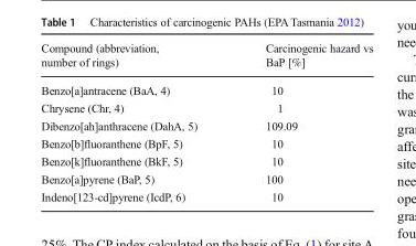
<table><thead><tr><td>Compound (abbreviation, number of rings)</td><td>Carcinogenic hazard vs BaP [%]</td></tr></thead><tbody><tr><td>Benzo[a]antracene (BaA, 4)</td><td>10</td></tr><tr><td>Chrysene (Chr, 4)</td><td>1</td></tr><tr><td>Dibenzo[ah]anthracene (DahA, 5)</td><td>109.09</td></tr><tr><td>Benzo[b]fluoranthene (BpF, 5)</td><td>10</td></tr><tr><td>Benzo[k]fluoranthene (BkF, 5)</td><td>10</td></tr><tr><td>Benzo[a]pyrene (BaP, 5)</td><td>100</td></tr><tr><td>Indeno[123-cd]pyrene (IcdP, 6)</td><td>10</td></tr></tbody></table>